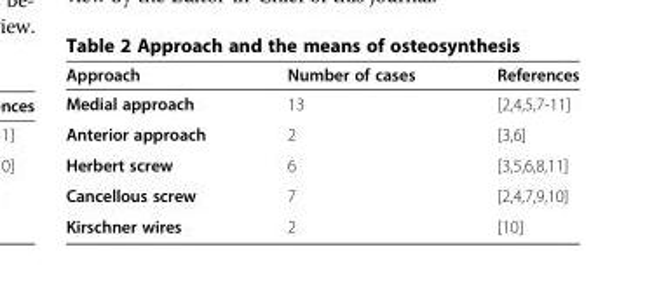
<table><thead><tr><td>Approach</td><td>Number of cases</td><td>References</td></tr></thead><tbody><tr><td>Medial approach</td><td>13</td><td>[2,4,5,7-11]</td></tr><tr><td>Anterior approach</td><td>2</td><td>[3,6]</td></tr><tr><td>Herbert screw</td><td>6</td><td>[3,5,6,8,11]</td></tr><tr><td>Cancellous screw</td><td>7</td><td>[2,4,7,9,10]</td></tr><tr><td>Kirschner wires</td><td>2</td><td>[10]</td></tr></tbody></table>